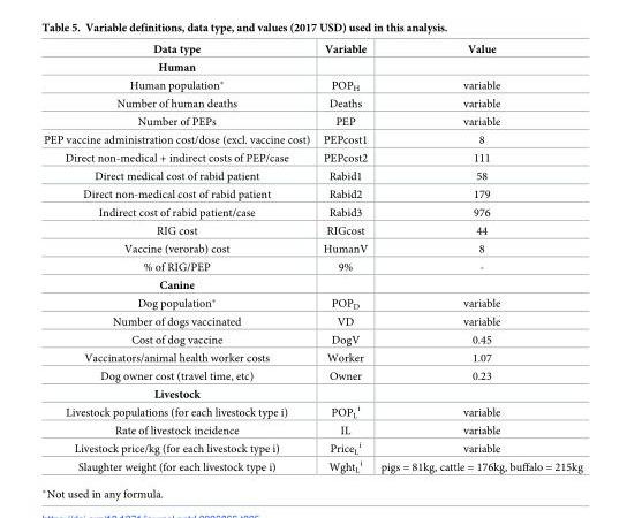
<table><thead><tr><td>Data type</td><td>Variable</td><td>Value</td></tr></thead><tbody><tr><td colspan="3">Human</td></tr><tr><td>Human population*</td><td>POP<sub>H</sub></td><td>variable</td></tr><tr><td>Number of human deaths</td><td>Deaths</td><td>variable</td></tr><tr><td>Number of PEPs</td><td>PEP</td><td>variable</td></tr><tr><td>PEP vaccine administration cost/dose (excl. vaccine cost)</td><td>PEPcost1</td><td>8</td></tr><tr><td>Direct non-medical + indirect costs of PEP/case</td><td>PEPcost2</td><td>111</td></tr><tr><td>Direct medical cost of rabid patient</td><td>Rabid1</td><td>58</td></tr><tr><td>Direct non-medical cost of rabid patient</td><td>Rabid2</td><td>179</td></tr><tr><td>Indirect cost of rabid patient/case</td><td>Rabid3</td><td>976</td></tr><tr><td>RIG cost</td><td>RIGcost</td><td>44</td></tr><tr><td>Vaccine (verorab) cost</td><td>HumanV</td><td>8</td></tr><tr><td>% of RIG/PEP</td><td>9%</td><td>-</td></tr><tr><td colspan="3">Canine</td></tr><tr><td>Dog population*</td><td>POP<sub>D</sub></td><td>variable</td></tr><tr><td>Number of dogs vaccinated</td><td>VD</td><td>variable</td></tr><tr><td>Cost of dog vaccine</td><td>DogV</td><td>0.45</td></tr><tr><td>Vaccinators/animal health worker costs</td><td>Worker</td><td>1.07</td></tr><tr><td>Dog owner cost (travel time, etc)</td><td>Owner</td><td>0.23</td></tr><tr><td colspan="3">Livestock</td></tr><tr><td>Livestock populations (for each livestock type i)</td><td>POP<sub>L</sub> <sup>i</sup></td><td>variable</td></tr><tr><td>Rate of livestock incidence</td><td>IL</td><td>variable</td></tr><tr><td>Livestock price/kg (for each livestock type i)</td><td>Price<sub>L</sub> <sup>i</sup></td><td>variable</td></tr><tr><td>Slaughter weight (for each livestock type i)</td><td>Wght<sub>L</sub> <sup>i</sup></td><td>pigs = 81kg, cattle = 176kg, buffalo = 215kg</td></tr></tbody></table>